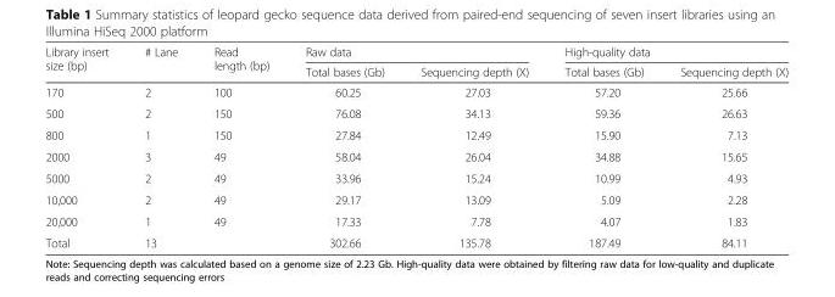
<table><thead><tr><td rowspan="2">Library insert size (bp)</td><td rowspan="2"># Lane</td><td rowspan="2">Read length (bp)</td><td colspan="2">Raw data</td><td colspan="2">High-quality data</td></tr><tr><td>Total bases (Gb)</td><td>Sequencing depth (X)</td><td>Total bases (Gb)</td><td>Sequencing depth (X)</td></tr></thead><tbody><tr><td>170</td><td>2</td><td>100</td><td>60.25</td><td>27.03</td><td>57.20</td><td>25.66</td></tr><tr><td>500</td><td>2</td><td>150</td><td>76.08</td><td>34.13</td><td>59.36</td><td>26.63</td></tr><tr><td>800</td><td>1</td><td>150</td><td>27.84</td><td>12.49</td><td>15.90</td><td>7.13</td></tr><tr><td>2000</td><td>3</td><td>49</td><td>58.04</td><td>26.04</td><td>34.88</td><td>15.65</td></tr><tr><td>5000</td><td>2</td><td>49</td><td>33.96</td><td>15.24</td><td>10.99</td><td>4.93</td></tr><tr><td>10,000</td><td>2</td><td>49</td><td>29.17</td><td>13.09</td><td>5.09</td><td>2.28</td></tr><tr><td>20,000</td><td>1</td><td>49</td><td>17.33</td><td>7.78</td><td>4.07</td><td>1.83</td></tr><tr><td>Total</td><td>13</td><td></td><td>302.66</td><td>135.78</td><td>187.49</td><td>84.11</td></tr></tbody></table>